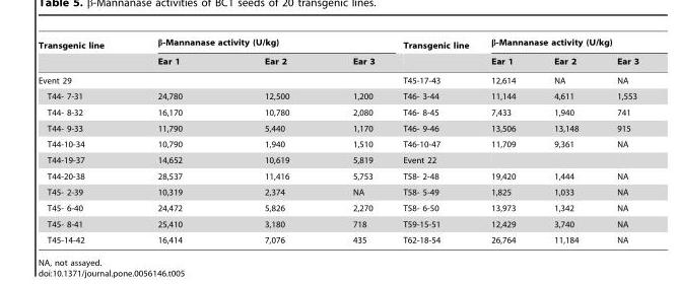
<table><thead><tr><td rowspan="2">Transgenic line</td><td colspan="3">β-Mannanase activity (U/kg)</td><td rowspan="2">Transgenic line</td><td colspan="3">β-Mannanase activity (U/kg)</td></tr><tr><td>Ear 1</td><td>Ear 2</td><td>Ear 3</td><td>Ear 1</td><td>Ear 2</td><td>Ear 3</td></tr></thead><tbody><tr><td>Event 29</td><td></td><td></td><td></td><td>T45-17-43</td><td>12,614</td><td>NA</td><td>NA</td></tr><tr><td>T44- 7-31</td><td>24,780</td><td>12,500</td><td>1,200</td><td>T46- 3-44</td><td>11,144</td><td>4,611</td><td>1,553</td></tr><tr><td>T44- 8-32</td><td>16,170</td><td>10,780</td><td>2,080</td><td>T46- 8-45</td><td>7,433</td><td>1,940</td><td>741</td></tr><tr><td>T44- 9-33</td><td>11,790</td><td>5,440</td><td>1,170</td><td>T46- 9-46</td><td>13,506</td><td>13,148</td><td>915</td></tr><tr><td>T44-10-34</td><td>10,790</td><td>1,940</td><td>1,510</td><td>T46-10-47</td><td>11,709</td><td>9,361</td><td>NA</td></tr><tr><td>T44-19-37</td><td>14,652</td><td>10,619</td><td>5,819</td><td>Event 22</td><td></td><td></td><td></td></tr><tr><td>T44-20-38</td><td>28,537</td><td>11,416</td><td>5,753</td><td>T58- 2-48</td><td>19,420</td><td>1,444</td><td>NA</td></tr><tr><td>T45- 2-39</td><td>10,319</td><td>2,374</td><td>NA</td><td>T58- 5-49</td><td>1,825</td><td>1,033</td><td>NA</td></tr><tr><td>T45- 6-40</td><td>24,472</td><td>5,826</td><td>2,270</td><td>T58- 6-50</td><td>13,973</td><td>1,342</td><td>NA</td></tr><tr><td>T45- 8-41</td><td>25,410</td><td>3,180</td><td>718</td><td>T59-15-51</td><td>12,429</td><td>3,740</td><td>NA</td></tr><tr><td>T45-14-42</td><td>16,414</td><td>7,076</td><td>435</td><td>T62-18-54</td><td>26,764</td><td>11,184</td><td>NA</td></tr></tbody></table>